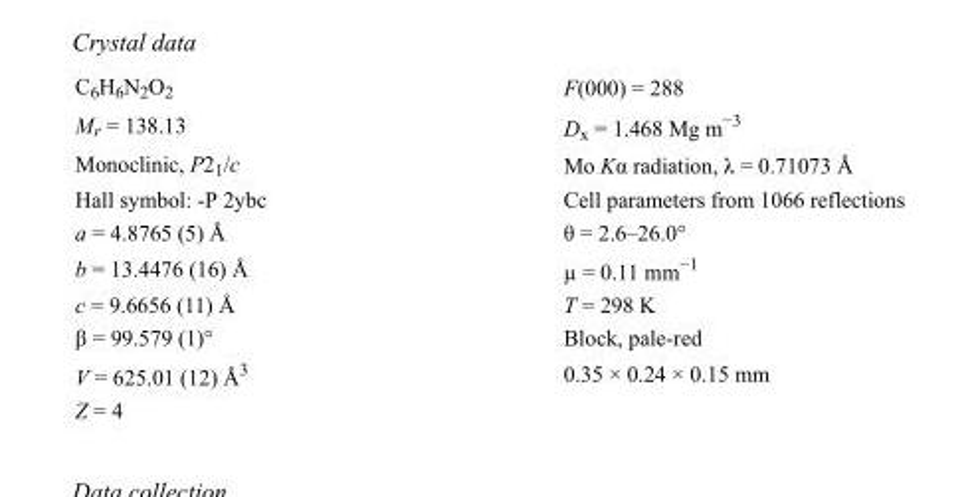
<table><tbody><tr><td>C<sub>6</sub>H<sub>6</sub>N<sub>2</sub>O<sub>2</sub></td><td>F(000) = 288</td></tr><tr><td>M<sub>r</sub> = 138.13</td><td>D<sub>x</sub> = 1.468 Mg m<sup>−3</sup></td></tr><tr><td>Monoclinic, P2<sub>1</sub>/c</td><td>Mo Kα radiation, λ = 0.71073 Å</td></tr><tr><td>Hall symbol: -P 2ybc</td><td>Cell parameters from 1066 reflections</td></tr><tr><td>a = 4.8765 (5) Å</td><td>θ = 2.6–26.0°</td></tr><tr><td>b = 13.4476 (16) Å</td><td>µ = 0.11 mm<sup>−1</sup></td></tr><tr><td>c = 9.6656 (11) Å</td><td>T = 298 K</td></tr><tr><td>β = 99.579 (1)°</td><td>Block, pale-red</td></tr><tr><td>V = 625.01 (12) Å<sup>3</sup></td><td>0.35 × 0.24 × 0.15 mm</td></tr><tr><td>Z = 4</td><td></td></tr></tbody></table>